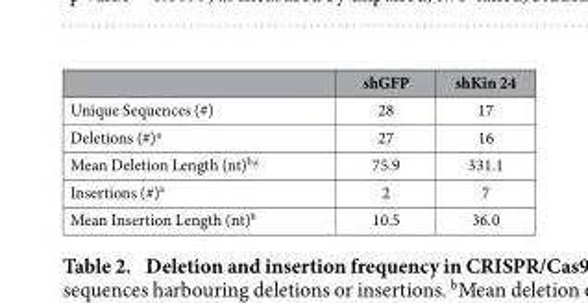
<table><thead><tr><td></td><td>shGFP</td><td>shKin 24</td></tr></thead><tbody><tr><td>Unique Sequences (#)</td><td>28</td><td>17</td></tr><tr><td>Deletions (#)<sup>a</sup></td><td>27</td><td>16</td></tr><tr><td>Mean Deletion Length (nt)b,<sup>c</sup></td><td>75.9</td><td>331.1</td></tr><tr><td>Insertions (#)<sup>a</sup></td><td>2</td><td>7</td></tr><tr><td>Mean Insertion Length (nt)<sup>b</sup></td><td>10.5</td><td>36.0</td></tr></tbody></table>